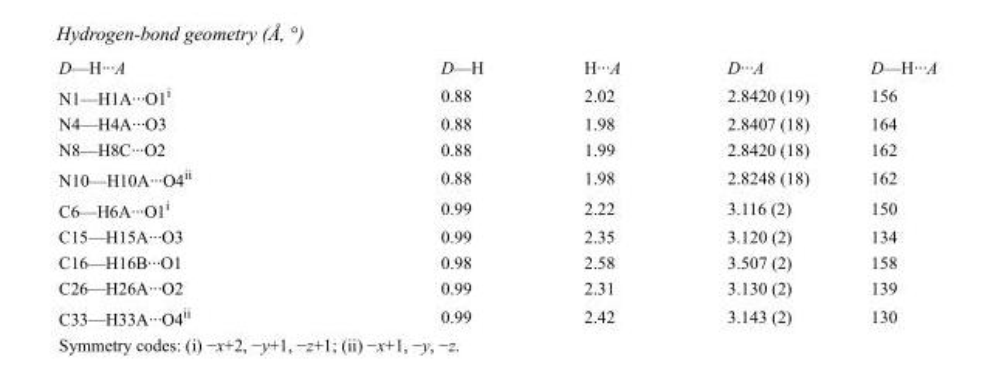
<table><tbody><tr><td>D—H···A</td><td>D—H</td><td>H···A</td><td>D···A</td><td>D—H···A</td></tr><tr><td>N1—H1A···O1<sup>i</sup></td><td>0.88</td><td>2.02</td><td>2.8420 (19)</td><td>156</td></tr><tr><td>N4—H4A···O3</td><td>0.88</td><td>1.98</td><td>2.8407 (18)</td><td>164</td></tr><tr><td>N8—H8C···O2</td><td>0.88</td><td>1.99</td><td>2.8420 (18)</td><td>162</td></tr><tr><td>N10—H10A···O4<sup>ii</sup></td><td>0.88</td><td>1.98</td><td>2.8248 (18)</td><td>162</td></tr><tr><td>C6—H6A···O1<sup>i</sup></td><td>0.99</td><td>2.22</td><td>3.116 (2)</td><td>150</td></tr><tr><td>C15—H15A···O3</td><td>0.99</td><td>2.35</td><td>3.120 (2)</td><td>134</td></tr><tr><td>C16—H16B···O1</td><td>0.98</td><td>2.58</td><td>3.507 (2)</td><td>158</td></tr><tr><td>C26—H26A···O2</td><td>0.99</td><td>2.31</td><td>3.130 (2)</td><td>139</td></tr><tr><td>C33—H33A···O4<sup>ii</sup></td><td>0.99</td><td>2.42</td><td>3.143 (2)</td><td>130</td></tr></tbody></table>